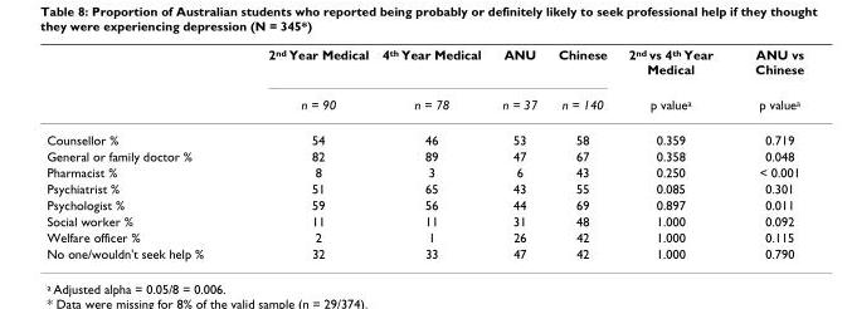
<table><thead><tr><td rowspan="2"></td><td rowspan="2">2<sup>nd</sup> Year Medical n = 90</td><td rowspan="2">4<sup>th</sup> Year Medical n = 78</td><td rowspan="2">ANU n = 37</td><td rowspan="2">Chinese n = 140</td><td rowspan="2">2<sup>nd</sup> vs 4<sup>th</sup> Year Medical p value<sup>a</sup></td><td rowspan="2">ANU vs Chinese p value<sup>a</sup></td></tr><tr></tr></thead><tbody><tr><td>Counsellor %</td><td>54</td><td>46</td><td>53</td><td>58</td><td>0.359</td><td>0.719</td></tr><tr><td>General or family doctor %</td><td>82</td><td>89</td><td>47</td><td>67</td><td>0.358</td><td>0.048</td></tr><tr><td>Pharmacist %</td><td>8</td><td>3</td><td>6</td><td>43</td><td>0.250</td><td>&lt; 0.001</td></tr><tr><td>Psychiatrist %</td><td>51</td><td>65</td><td>43</td><td>55</td><td>0.085</td><td>0.301</td></tr><tr><td>Psychologist %</td><td>59</td><td>56</td><td>44</td><td>69</td><td>0.897</td><td>0.011</td></tr><tr><td>Social worker %</td><td>11</td><td>11</td><td>31</td><td>48</td><td>1.000</td><td>0.092</td></tr><tr><td>Welfare officer %</td><td>2</td><td>1</td><td>26</td><td>42</td><td>1.000</td><td>0.115</td></tr><tr><td>No one/wouldn&#x27;t seek help %</td><td>32</td><td>33</td><td>47</td><td>42</td><td>1.000</td><td>0.790</td></tr></tbody></table>